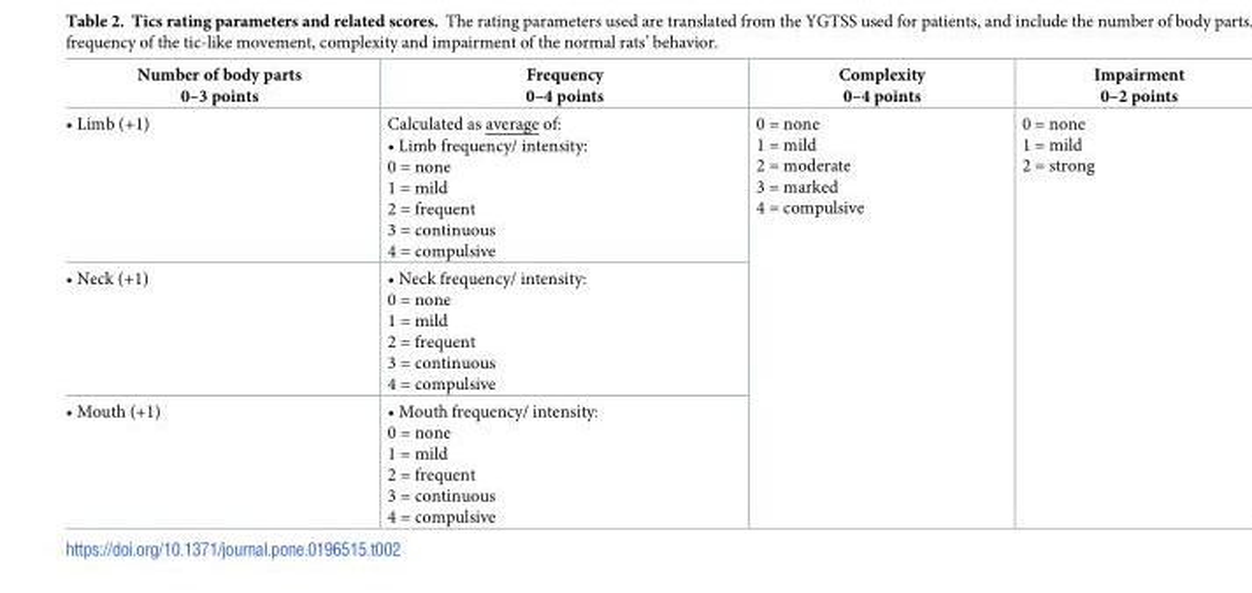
<table><thead><tr><td>Number of body parts 0–3 points</td><td>Frequency 0–4 points</td><td>Complexity 0–4 points</td><td>Impairment 0–2 points</td></tr></thead><tbody><tr><td>• Limb (+1)</td><td>Calculated as average of: • Limb frequency/ intensity: 0 = none 1 = mild 2 = frequent 3 = continuous 4 = compulsive</td><td rowspan="3">0 = none 1 = mild 2 = moderate 3 = marked 4 = compulsive</td><td rowspan="3">0 = none 1 = mild 2 = strong</td></tr><tr><td>• Neck (+1)</td><td>• Neck frequency/ intensity: 0 = none 1 = mild 2 = frequent 3 = continuous 4 = compulsive</td></tr><tr><td>• Mouth (+1)</td><td>• Mouth frequency/ intensity: 0 = none 1 = mild 2 = frequent 3 = continuous 4 = compulsive</td></tr></tbody></table>